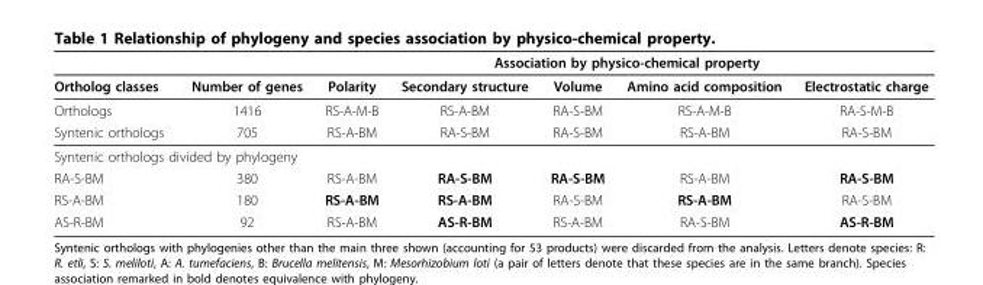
<table><thead><tr><td rowspan="2">Ortholog classes</td><td rowspan="2">Number of genes</td><td colspan="5">Association by physico-chemical property</td></tr><tr><td>Polarity</td><td>Secondary structure</td><td>Volume</td><td>Amino acid composition</td><td>Electrostatic charge</td></tr></thead><tbody><tr><td>Orthologs</td><td>1416</td><td>RS-A-M-B</td><td>RS-A-BM</td><td>RA-S-BM</td><td>RS-A-M-B</td><td>RA-S-M-B</td></tr><tr><td>Syntenic orthologs</td><td>705</td><td>RS-A-BM</td><td>RA-S-BM</td><td>RA-S-BM</td><td>RS-A-BM</td><td>RA-S-BM</td></tr><tr><td colspan="7">Syntenic orthologs divided by phylogeny</td></tr><tr><td>RA-S-BM</td><td>380</td><td>RS-A-BM</td><td>RA-S-BM</td><td>RA-S-BM</td><td>RS-A-BM</td><td>RA-S-BM</td></tr><tr><td>RS-A-BM</td><td>180</td><td>RS-A-BM</td><td>RS-A-BM</td><td>RA-S-BM</td><td>RS-A-BM</td><td>RA-S-BM</td></tr><tr><td>AS-R-BM</td><td>92</td><td>RS-A-BM</td><td>AS-R-BM</td><td>RS-A-BM</td><td>RA-S-BM</td><td>AS-R-BM</td></tr></tbody></table>